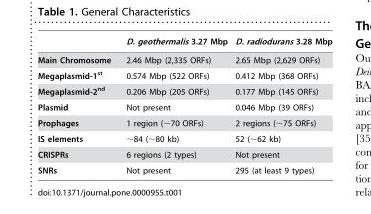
<table><thead><tr><td></td><td>D. geothermalis 3.27 Mbp</td><td>D. radiodurans 3.28 Mbp</td></tr></thead><tbody><tr><td>Main Chromosome</td><td>2.46 Mbp (2,335 ORFs)</td><td>2.65 Mbp (2,629 ORFs)</td></tr><tr><td>Megaplasmid-1<sup>st</sup></td><td>0.574 Mbp (522 ORFs)</td><td>0.412 Mbp (368 ORFs)</td></tr><tr><td>Megaplasmid-2<sup>nd</sup></td><td>0.206 Mbp (205 ORFs)</td><td>0.177 Mbp (145 ORFs)</td></tr><tr><td>Plasmid</td><td>Not present</td><td>0.046 Mbp (39 ORFs)</td></tr><tr><td>Prophages</td><td>1 region (∼70 ORFs)</td><td>2 regions (∼75 ORFs)</td></tr><tr><td>IS elements</td><td>∼84 (∼80 kb)</td><td>52 (∼62 kb)</td></tr><tr><td>CRISPRs</td><td>6 regions (2 types)</td><td>Not present</td></tr><tr><td>SNRs</td><td>Not present</td><td>295 (at least 9 types)</td></tr></tbody></table>